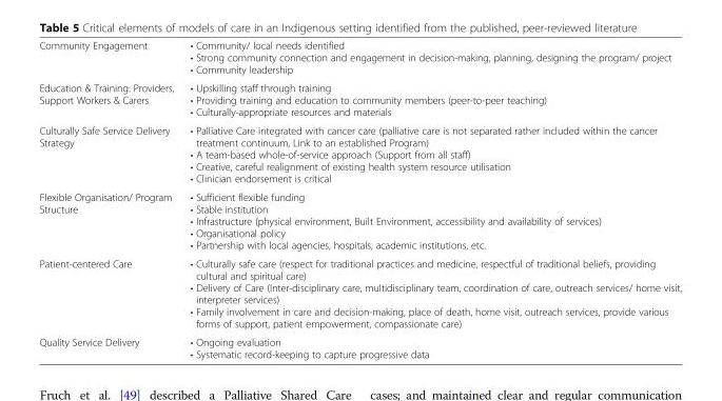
<table><tbody><tr><td>Community Engagement</td><td>• Community/ local needs identified • Strong community connection and engagement in decision-making, planning, designing the program/ project • Community leadership</td></tr><tr><td>Education &amp; Training: Providers, Support Workers &amp; Carers</td><td>• Upskilling staff through training • Providing training and education to community members (peer-to-peer teaching) • Culturally-appropriate resources and materials</td></tr><tr><td>Culturally Safe Service Delivery Strategy</td><td>• Palliative Care integrated with cancer care (palliative care is not separated rather included within the cancer treatment continuum, Link to an established Program) • A team-based whole-of-service approach (Support from all staff) • Creative, careful realignment of existing health system resource utilisation • Clinician endorsement is critical</td></tr><tr><td>Flexible Organisation/ Program Structure</td><td>• Sufficient flexible funding • Stable institution • Infrastructure (physical environment, Built Environment, accessibility and availability of services) • Organisational policy • Partnership with local agencies, hospitals, academic institutions, etc.</td></tr><tr><td>Patient-centered Care</td><td>• Culturally safe care (respect for traditional practices and medicine, respectful of traditional beliefs, providing cultural and spiritual care) • Delivery of Care (Inter-disciplinary care, multidisciplinary team, coordination of care, outreach services/ home visit, interpreter services) • Family involvement in care and decision-making, place of death, home visit, outreach services, provide various forms of support, patient empowerment, compassionate care)</td></tr><tr><td>Quality Service Delivery</td><td>• Ongoing evaluation • Systematic record-keeping to capture progressive data</td></tr></tbody></table>